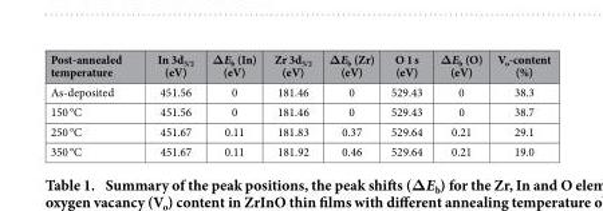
<table><thead><tr><td>Post-annealed temperature</td><td>In 3d<sub>5/2</sub> (eV)</td><td>ΔE<sub>b</sub> (In) (eV)</td><td>Zr 3d<sub>5/2</sub> (eV)</td><td>ΔE<sub>b</sub> (Zr) (eV)</td><td>O 1 s (eV)</td><td>ΔE<sub>b</sub> (O) (eV)</td><td>V<sub>o</sub>-content (%)</td></tr></thead><tbody><tr><td>As-deposited</td><td>451.56</td><td>0</td><td>181.46</td><td>0</td><td>529.43</td><td>0</td><td>38.3</td></tr><tr><td>150 °C</td><td>451.56</td><td>0</td><td>181.46</td><td>0</td><td>529.43</td><td>0</td><td>38.7</td></tr><tr><td>250 °C</td><td>451.67</td><td>0.11</td><td>181.83</td><td>0.37</td><td>529.64</td><td>0.21</td><td>29.1</td></tr><tr><td>350 °C</td><td>451.67</td><td>0.11</td><td>181.92</td><td>0.46</td><td>529.64</td><td>0.21</td><td>19.0</td></tr></tbody></table>